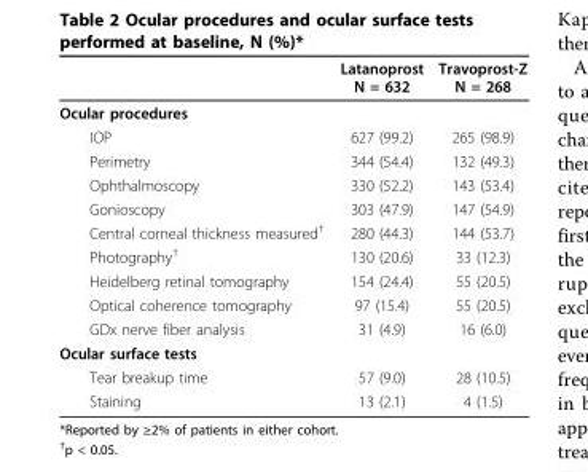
<table><thead><tr><td></td><td>Latanoprost N = 632</td><td>Travoprost-Z N = 268</td></tr></thead><tbody><tr><td colspan="3">Ocular procedures</td></tr><tr><td>IOP</td><td>627 (99.2)</td><td>265 (98.9)</td></tr><tr><td>Perimetry</td><td>344 (54.4)</td><td>132 (49.3)</td></tr><tr><td>Ophthalmoscopy</td><td>330 (52.2)</td><td>143 (53.4)</td></tr><tr><td>Gonioscopy</td><td>303 (47.9)</td><td>147 (54.9)</td></tr><tr><td>Central corneal thickness measured<sup>†</sup></td><td>280 (44.3)</td><td>144 (53.7)</td></tr><tr><td>Photography<sup>†</sup></td><td>130 (20.6)</td><td>33 (12.3)</td></tr><tr><td>Heidelberg retinal tomography</td><td>154 (24.4)</td><td>55 (20.5)</td></tr><tr><td>Optical coherence tomography</td><td>97 (15.4)</td><td>55 (20.5)</td></tr><tr><td>GDx nerve fiber analysis</td><td>31 (4.9)</td><td>16 (6.0)</td></tr><tr><td colspan="3">Ocular surface tests</td></tr><tr><td>Tear breakup time</td><td>57 (9.0)</td><td>28 (10.5)</td></tr><tr><td>Staining</td><td>13 (2.1)</td><td>4 (1.5)</td></tr></tbody></table>